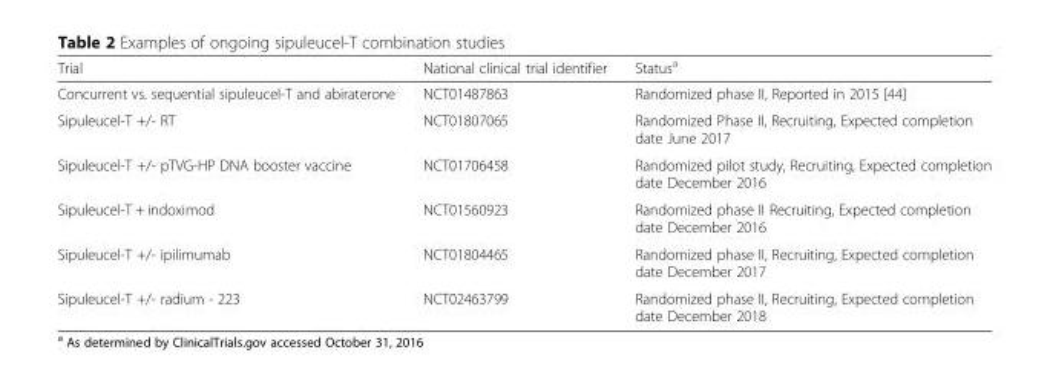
<table><thead><tr><td>Trial</td><td>National clinical trial identifier</td><td>Status<sup>a</sup></td></tr></thead><tbody><tr><td>Concurrent vs. sequential sipuleucel-T and abiraterone</td><td>NCT01487863</td><td>Randomized phase II, Reported in 2015 [44]</td></tr><tr><td>Sipuleucel-T +/- RT</td><td>NCT01807065</td><td>Randomized Phase II, Recruiting, Expected completion date June 2017</td></tr><tr><td>Sipuleucel-T +/- pTVG-HP DNA booster vaccine</td><td>NCT01706458</td><td>Randomized pilot study, Recruiting, Expected completion date December 2016</td></tr><tr><td>Sipuleucel-T + indoximod</td><td>NCT01560923</td><td>Randomized phase II Recruiting, Expected completion date December 2016</td></tr><tr><td>Sipuleucel-T +/- ipilimumab</td><td>NCT01804465</td><td>Randomized phase II, Recruiting, Expected completion date December 2017</td></tr><tr><td>Sipuleucel-T +/- radium - 223</td><td>NCT02463799</td><td>Randomized phase II, Recruiting, Expected completion date December 2018</td></tr></tbody></table>